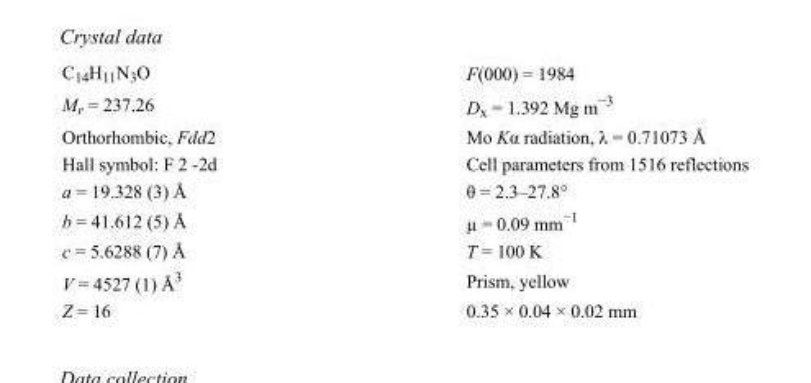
<table><tbody><tr><td>C<sub>14</sub>H<sub>11</sub>N<sub>3</sub>O</td><td>F(000) = 1984</td></tr><tr><td>M<sub>r</sub> = 237.26</td><td>D<sub>x</sub> = 1.392 Mg m<sup>−3</sup></td></tr><tr><td>Orthorhombic, Fdd2</td><td>Mo Kα radiation, λ = 0.71073 Å</td></tr><tr><td>Hall symbol: F 2 -2d</td><td>Cell parameters from 1516 reflections</td></tr><tr><td>a = 19.328 (3) Å</td><td>θ = 2.3–27.8°</td></tr><tr><td>b = 41.612 (5) Å</td><td>µ = 0.09 mm<sup>−1</sup></td></tr><tr><td>c = 5.6288 (7) Å</td><td>T = 100 K</td></tr><tr><td>V = 4527 (1) Å<sup>3</sup></td><td>Prism, yellow</td></tr><tr><td>Z = 16</td><td>0.35 × 0.04 × 0.02 mm</td></tr></tbody></table>